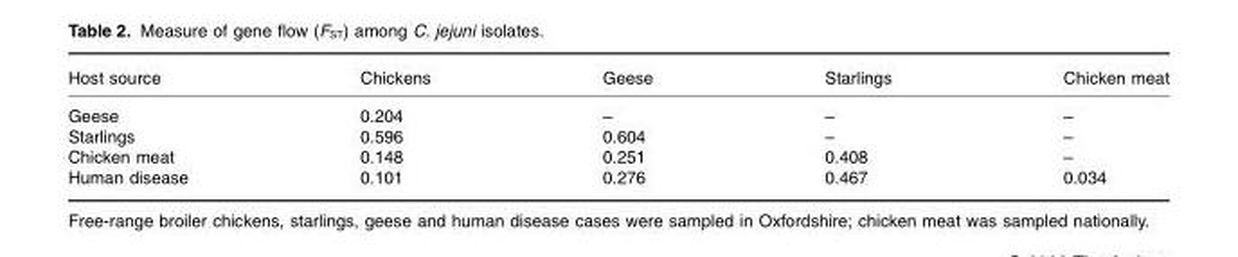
<table><thead><tr><td>Host source</td><td>Chickens</td><td>Geese</td><td>Starlings</td><td>Chicken meat</td></tr></thead><tbody><tr><td>Geese</td><td>0.204</td><td>–</td><td>–</td><td>–</td></tr><tr><td>Starlings</td><td>0.596</td><td>0.604</td><td>–</td><td>–</td></tr><tr><td>Chicken meat</td><td>0.148</td><td>0.251</td><td>0.408</td><td>–</td></tr><tr><td>Human disease</td><td>0.101</td><td>0.276</td><td>0.467</td><td>0.034</td></tr></tbody></table>